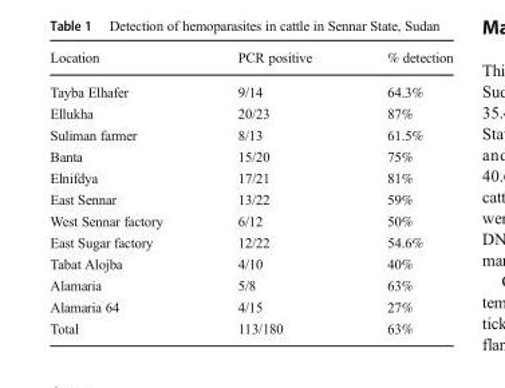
<table><thead><tr><td>Location</td><td>PCR positive</td><td>% detection</td></tr></thead><tbody><tr><td>Tayba Elhafer</td><td>9/14</td><td>64.3%</td></tr><tr><td>Ellukha</td><td>20/23</td><td>87%</td></tr><tr><td>Suliman farmer</td><td>8/13</td><td>61.5%</td></tr><tr><td>Banta</td><td>15/20</td><td>75%</td></tr><tr><td>Elnifdya</td><td>17/21</td><td>81%</td></tr><tr><td>East Sennar</td><td>13/22</td><td>59%</td></tr><tr><td>West Sennar factory</td><td>6/12</td><td>50%</td></tr><tr><td>East Sugar factory</td><td>12/22</td><td>54.6%</td></tr><tr><td>Tabat Alojba</td><td>4/10</td><td>40%</td></tr><tr><td>Alamaria</td><td>5/8</td><td>63%</td></tr><tr><td>Alamaria 64</td><td>4/15</td><td>27%</td></tr><tr><td>Total</td><td>113/180</td><td>63%</td></tr></tbody></table>